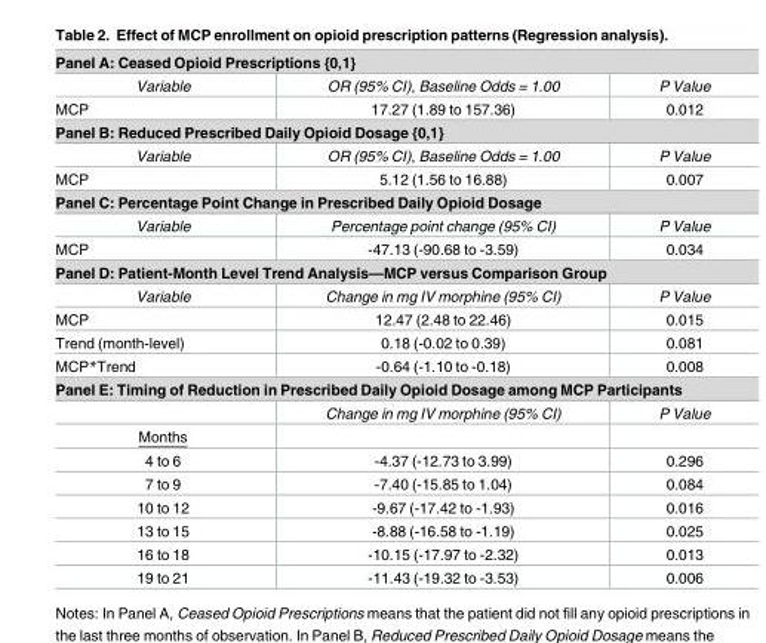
<table><tbody><tr><td colspan="3">Panel A: Ceased Opioid Prescriptions {0,1}</td></tr><tr><td>Variable</td><td>OR (95% CI), Baseline Odds = 1.00</td><td>P Value</td></tr><tr><td>MCP</td><td>17.27 (1.89 to 157.36)</td><td>0.012</td></tr><tr><td colspan="3">Panel B: Reduced Prescribed Daily Opioid Dosage {0,1}</td></tr><tr><td>Variable</td><td>OR (95% CI), Baseline Odds = 1.00</td><td>P Value</td></tr><tr><td>MCP</td><td>5.12 (1.56 to 16.88)</td><td>0.007</td></tr><tr><td colspan="3">Panel C: Percentage Point Change in Prescribed Daily Opioid Dosage</td></tr><tr><td>Variable</td><td>Percentage point change (95% CI)</td><td>P Value</td></tr><tr><td>MCP</td><td>-47.13 (-90.68 to -3.59)</td><td>0.034</td></tr><tr><td colspan="3">Panel D: Patient-Month Level Trend Analysis—MCP versus Comparison Group</td></tr><tr><td>Variable</td><td>Change in mg IV morphine (95% CI)</td><td>P Value</td></tr><tr><td>MCP</td><td>12.47 (2.48 to 22.46)</td><td>0.015</td></tr><tr><td>Trend (month-level)</td><td>0.18 (-0.02 to 0.39)</td><td>0.081</td></tr><tr><td>MCP*Trend</td><td>-0.64 (-1.10 to -0.18)</td><td>0.008</td></tr><tr><td colspan="3">Panel E: Timing of Reduction in Prescribed Daily Opioid Dosage among MCP Participants</td></tr><tr><td></td><td>Change in mg IV morphine (95% CI)</td><td>P Value</td></tr><tr><td colspan="3">Months</td></tr><tr><td>4 to 6</td><td>-4.37 (-12.73 to 3.99)</td><td>0.296</td></tr><tr><td>7 to 9</td><td>-7.40 (-15.85 to 1.04)</td><td>0.084</td></tr><tr><td>10 to 12</td><td>-9.67 (-17.42 to -1.93)</td><td>0.016</td></tr><tr><td>13 to 15</td><td>-8.88 (-16.58 to -1.19)</td><td>0.025</td></tr><tr><td>16 to 18</td><td>-10.15 (-17.97 to -2.32)</td><td>0.013</td></tr><tr><td>19 to 21</td><td>-11.43 (-19.32 to -3.53)</td><td>0.006</td></tr></tbody></table>